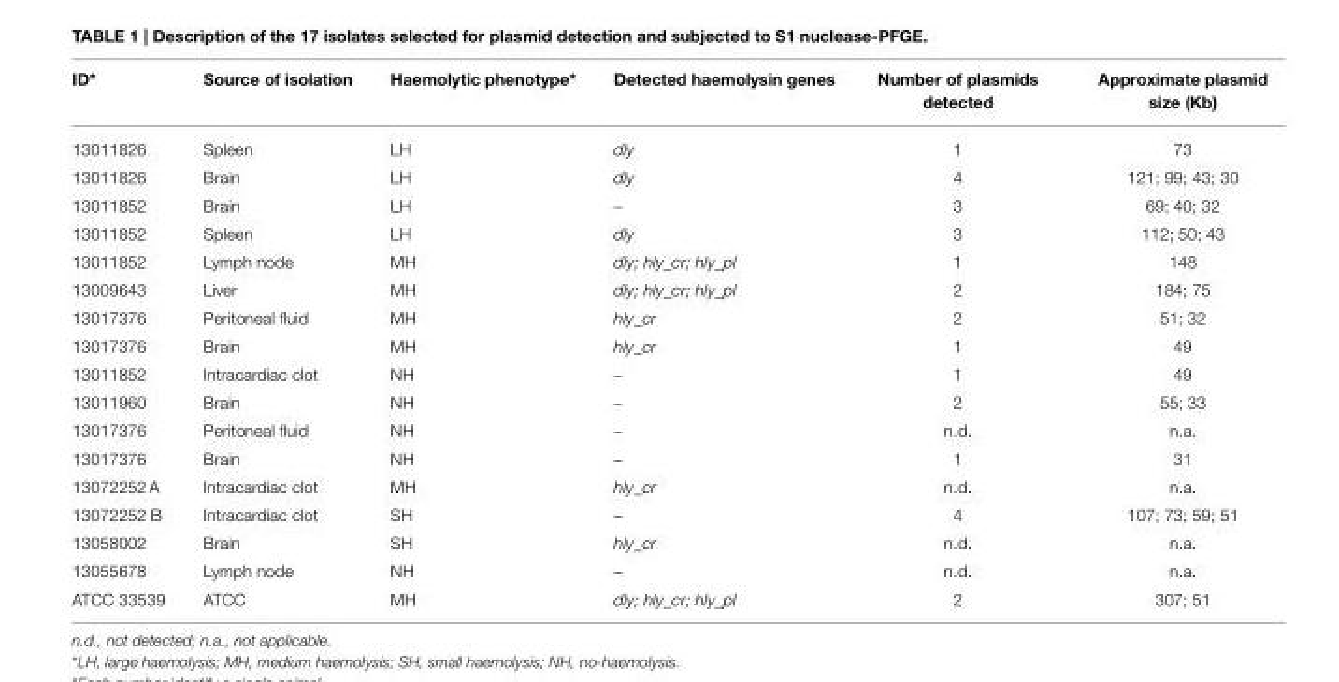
<table><thead><tr><td>ID*</td><td>Source of isolation</td><td>Haemolytic phenotype*</td><td>Detected haemolysin genes</td><td>Number of plasmids detected</td><td>Approximate plasmid size (Kb)</td></tr></thead><tbody><tr><td>13011826</td><td>Spleen</td><td>LH</td><td>dly</td><td>1</td><td>73</td></tr><tr><td>13011826</td><td>Brain</td><td>LH</td><td>dly</td><td>4</td><td>121; 99; 43; 30</td></tr><tr><td>13011852</td><td>Brain</td><td>LH</td><td>–</td><td>3</td><td>69; 40; 32</td></tr><tr><td>13011852</td><td>Spleen</td><td>LH</td><td>dly</td><td>3</td><td>112; 50; 43</td></tr><tr><td>13011852</td><td>Lymph node</td><td>MH</td><td>dly; hly_cr; hly_pl</td><td>1</td><td>148</td></tr><tr><td>13009643</td><td>Liver</td><td>MH</td><td>dly; hly_cr; hly_pl</td><td>2</td><td>184; 75</td></tr><tr><td>13017376</td><td>Peritoneal fluid</td><td>MH</td><td>hly_cr</td><td>2</td><td>51; 32</td></tr><tr><td>13017376</td><td>Brain</td><td>MH</td><td>hly_cr</td><td>1</td><td>49</td></tr><tr><td>13011852</td><td>Intracardiac clot</td><td>NH</td><td>–</td><td>1</td><td>49</td></tr><tr><td>13011960</td><td>Brain</td><td>NH</td><td>–</td><td>2</td><td>55; 33</td></tr><tr><td>13017376</td><td>Peritoneal fluid</td><td>NH</td><td>–</td><td>n.d.</td><td>n.a.</td></tr><tr><td>13017376</td><td>Brain</td><td>NH</td><td>–</td><td>1</td><td>31</td></tr><tr><td>13072252 A</td><td>Intracardiac clot</td><td>MH</td><td>hly_cr</td><td>n.d.</td><td>n.a.</td></tr><tr><td>13072252 B</td><td>Intracardiac clot</td><td>SH</td><td>–</td><td>4</td><td>107; 73; 59; 51</td></tr><tr><td>13058002</td><td>Brain</td><td>SH</td><td>hly_cr</td><td>n.d.</td><td>n.a.</td></tr><tr><td>13055678</td><td>Lymph node</td><td>NH</td><td>–</td><td>n.d.</td><td>n.a.</td></tr><tr><td>ATCC 33539</td><td>ATCC</td><td>MH</td><td>dly; hly_cr; hly_pl</td><td>2</td><td>307; 51</td></tr></tbody></table>